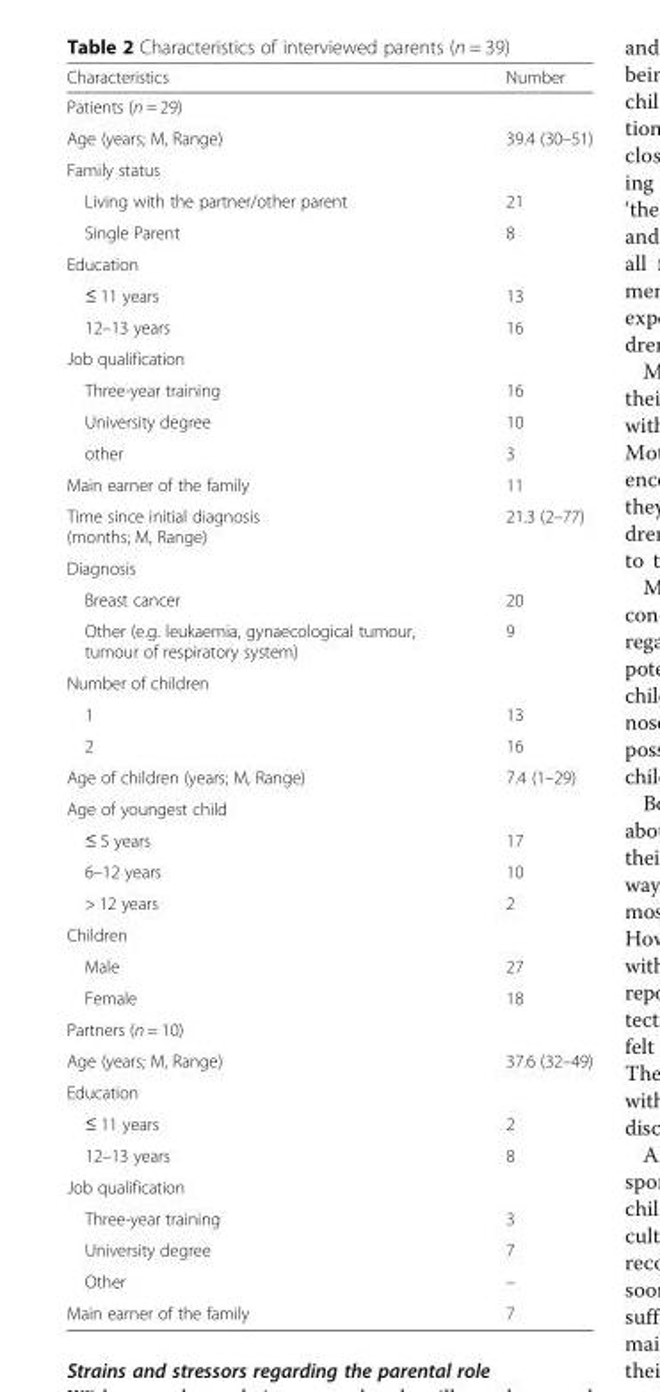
<table><thead><tr><td>Characteristics</td><td>Number</td></tr></thead><tbody><tr><td colspan="2">Patients (n = 29)</td></tr><tr><td>Age (years; M, Range)</td><td>39.4 (30–51)</td></tr><tr><td colspan="2">Family status</td></tr><tr><td>Living with the partner/other parent</td><td>21</td></tr><tr><td>Single Parent</td><td>8</td></tr><tr><td colspan="2">Education</td></tr><tr><td>≤ 11 years</td><td>13</td></tr><tr><td>12–13 years</td><td>16</td></tr><tr><td colspan="2">Job qualification</td></tr><tr><td>Three-year training</td><td>16</td></tr><tr><td>University degree</td><td>10</td></tr><tr><td>other</td><td>3</td></tr><tr><td>Main earner of the family</td><td>11</td></tr><tr><td>Time since initial diagnosis (months; M, Range)</td><td>21.3 (2–77)</td></tr><tr><td colspan="2">Diagnosis</td></tr><tr><td>Breast cancer</td><td>20</td></tr><tr><td>Other (e.g. leukaemia, gynaecological tumour, tumour of respiratory system)</td><td>9</td></tr><tr><td colspan="2">Number of children</td></tr><tr><td>1</td><td>13</td></tr><tr><td>2</td><td>16</td></tr><tr><td>Age of children (years; M, Range)</td><td>7.4 (1–29)</td></tr><tr><td colspan="2">Age of youngest child</td></tr><tr><td>≤ 5 years</td><td>17</td></tr><tr><td>6–12 years</td><td>10</td></tr><tr><td>&gt; 12 years</td><td>2</td></tr><tr><td colspan="2">Children</td></tr><tr><td>Male</td><td>27</td></tr><tr><td>Female</td><td>18</td></tr><tr><td colspan="2">Partners (n = 10)</td></tr><tr><td>Age (years; M, Range)</td><td>37.6 (32–49)</td></tr><tr><td colspan="2">Education</td></tr><tr><td>≤ 11 years</td><td>2</td></tr><tr><td>12–13 years</td><td>8</td></tr><tr><td colspan="2">Job qualification</td></tr><tr><td>Three-year training</td><td>3</td></tr><tr><td>University degree</td><td>7</td></tr><tr><td>Other</td><td>–</td></tr><tr><td>Main earner of the family</td><td>7</td></tr></tbody></table>